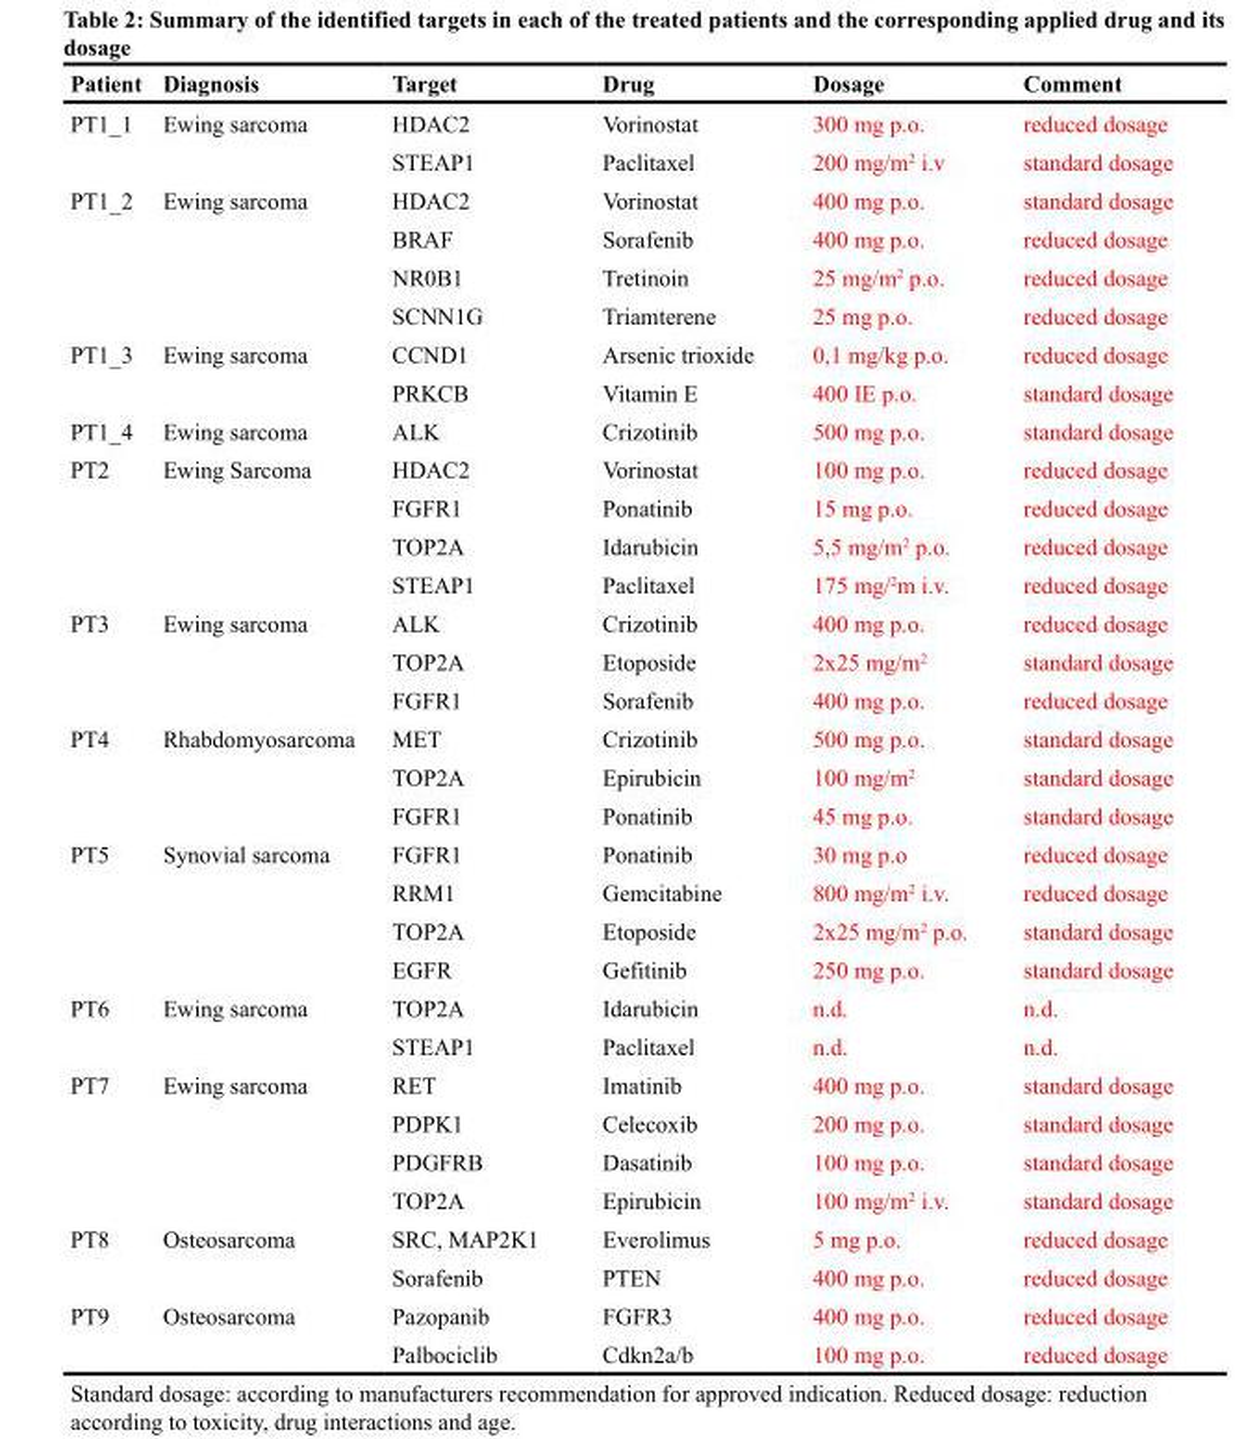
<table><thead><tr><td>Patient</td><td>Diagnosis</td><td>Target</td><td>Drug</td><td>Dosage</td><td>Comment</td></tr></thead><tbody><tr><td rowspan="2">PT1_1</td><td rowspan="2">Ewing sarcoma</td><td>HDAC2</td><td>Vorinostat</td><td>300 mg p.o.</td><td>reduced dosage</td></tr><tr><td>STEAP1</td><td>Paclitaxel</td><td>200 mg/m<sup>2</sup> i.v</td><td>standard dosage</td></tr><tr><td rowspan="4">PT1_2</td><td rowspan="4">Ewing sarcoma</td><td>HDAC2</td><td>Vorinostat</td><td>400 mg p.o.</td><td>standard dosage</td></tr><tr><td>BRAF</td><td>Sorafenib</td><td>400 mg p.o.</td><td>reduced dosage</td></tr><tr><td>NR0B1</td><td>Tretinoin</td><td>25 mg/m<sup>2</sup> p.o.</td><td>reduced dosage</td></tr><tr><td>SCNN1G</td><td>Triamterene</td><td>25 mg p.o.</td><td>reduced dosage</td></tr><tr><td rowspan="2">PT1_3</td><td rowspan="2">Ewing sarcoma</td><td>CCND1</td><td>Arsenic trioxide</td><td>0,1 mg/kg p.o.</td><td>reduced dosage</td></tr><tr><td>PRKCB</td><td>Vitamin E</td><td>400 IE p.o.</td><td>standard dosage</td></tr><tr><td>PT1_4</td><td>Ewing sarcoma</td><td>ALK</td><td>Crizotinib</td><td>500 mg p.o.</td><td>standard dosage</td></tr><tr><td rowspan="4">PT2</td><td rowspan="4">Ewing Sarcoma</td><td>HDAC2</td><td>Vorinostat</td><td>100 mg p.o.</td><td>reduced dosage</td></tr><tr><td>FGFR1</td><td>Ponatinib</td><td>15 mg p.o.</td><td>reduced dosage</td></tr><tr><td>TOP2A</td><td>Idarubicin</td><td>5,5 mg/m<sup>2</sup> p.o.</td><td>reduced dosage</td></tr><tr><td>STEAP1</td><td>Paclitaxel</td><td>175 mg/<sup>2</sup>m i.v.</td><td>reduced dosage</td></tr><tr><td rowspan="3">PT3</td><td rowspan="3">Ewing sarcoma</td><td>ALK</td><td>Crizotinib</td><td>400 mg p.o.</td><td>reduced dosage</td></tr><tr><td>TOP2A</td><td>Etoposide</td><td>2x25 mg/m<sup>2</sup></td><td>standard dosage</td></tr><tr><td>FGFR1</td><td>Sorafenib</td><td>400 mg p.o.</td><td>reduced dosage</td></tr><tr><td rowspan="3">PT4</td><td rowspan="3">Rhabdomyosarcoma</td><td>MET</td><td>Crizotinib</td><td>500 mg p.o.</td><td>standard dosage</td></tr><tr><td>TOP2A</td><td>Epirubicin</td><td>100 mg/m<sup>2</sup></td><td>standard dosage</td></tr><tr><td>FGFR1</td><td>Ponatinib</td><td>45 mg p.o.</td><td>standard dosage</td></tr><tr><td rowspan="4">PT5</td><td rowspan="4">Synovial sarcoma</td><td>FGFR1</td><td>Ponatinib</td><td>30 mg p.o</td><td>reduced dosage</td></tr><tr><td>RRM1</td><td>Gemcitabine</td><td>800 mg/m<sup>2</sup> i.v.</td><td>reduced dosage</td></tr><tr><td>TOP2A</td><td>Etoposide</td><td>2x25 mg/m<sup>2</sup> p.o.</td><td>standard dosage</td></tr><tr><td>EGFR</td><td>Gefitinib</td><td>250 mg p.o.</td><td>standard dosage</td></tr><tr><td rowspan="2">PT6</td><td rowspan="2">Ewing sarcoma</td><td>TOP2A</td><td>Idarubicin</td><td>n.d.</td><td>n.d.</td></tr><tr><td>STEAP1</td><td>Paclitaxel</td><td>n.d.</td><td>n.d.</td></tr><tr><td rowspan="4">PT7</td><td rowspan="4">Ewing sarcoma</td><td>RET</td><td>Imatinib</td><td>400 mg p.o.</td><td>standard dosage</td></tr><tr><td>PDPK1</td><td>Celecoxib</td><td>200 mg p.o.</td><td>standard dosage</td></tr><tr><td>PDGFRB</td><td>Dasatinib</td><td>100 mg p.o.</td><td>standard dosage</td></tr><tr><td>TOP2A</td><td>Epirubicin</td><td>100 mg/m<sup>2</sup> i.v.</td><td>standard dosage</td></tr><tr><td rowspan="2">PT8</td><td rowspan="2">Osteosarcoma</td><td>SRC, MAP2K1</td><td>Everolimus</td><td>5 mg p.o.</td><td>reduced dosage</td></tr><tr><td>Sorafenib</td><td>PTEN</td><td>400 mg p.o.</td><td>reduced dosage</td></tr><tr><td rowspan="2">PT9</td><td rowspan="2">Osteosarcoma</td><td>Pazopanib</td><td>FGFR3</td><td>400 mg p.o.</td><td>reduced dosage</td></tr><tr><td>Palbociclib</td><td>Cdkn2a/b</td><td>100 mg p.o.</td><td>reduced dosage</td></tr></tbody></table>